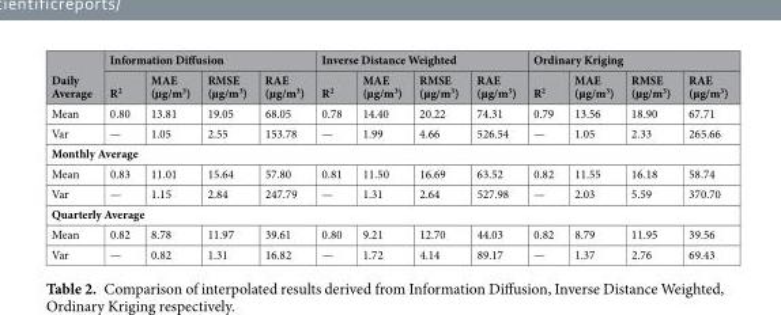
<table><thead><tr><td rowspan="2">Daily Average</td><td colspan="4">Information Diffusion</td><td colspan="4">Inverse Distance Weighted</td><td colspan="4">Ordinary Kriging</td></tr><tr><td>R<sup>2</sup></td><td>MAE (µg/m<sup>3</sup>)</td><td>RMSE (µg/m<sup>3</sup>)</td><td>RAE (µg/m<sup>3</sup>)</td><td>R<sup>2</sup></td><td>MAE (µg/m<sup>3</sup>)</td><td>RMSE (µg/m<sup>3</sup>)</td><td>RAE (µg/m<sup>3</sup>)</td><td>R<sup>2</sup></td><td>MAE (µg/m<sup>3</sup>)</td><td>RMSE (µg/m<sup>3</sup>)</td><td>RAE (µg/m<sup>3</sup>)</td></tr></thead><tbody><tr><td>Mean</td><td>0.80</td><td>13.81</td><td>19.05</td><td>68.05</td><td>0.78</td><td>14.40</td><td>20.22</td><td>74.31</td><td>0.79</td><td>13.56</td><td>18.90</td><td>67.71</td></tr><tr><td>Var</td><td>—</td><td>1.05</td><td>2.55</td><td>153.78</td><td>—</td><td>1.99</td><td>4.66</td><td>526.54</td><td>—</td><td>1.05</td><td>2.33</td><td>265.66</td></tr><tr><td colspan="13">Monthly Average</td></tr><tr><td>Mean</td><td>0.83</td><td>11.01</td><td>15.64</td><td>57.80</td><td>0.81</td><td>11.50</td><td>16.69</td><td>63.52</td><td>0.82</td><td>11.55</td><td>16.18</td><td>58.74</td></tr><tr><td>Var</td><td>—</td><td>1.15</td><td>2.84</td><td>247.79</td><td>—</td><td>1.31</td><td>2.64</td><td>527.98</td><td>—</td><td>2.03</td><td>5.59</td><td>370.70</td></tr><tr><td colspan="13">Quarterly Average</td></tr><tr><td>Mean</td><td>0.82</td><td>8.78</td><td>11.97</td><td>39.61</td><td>0.80</td><td>9.21</td><td>12.70</td><td>44.03</td><td>0.82</td><td>8.79</td><td>11.95</td><td>39.56</td></tr><tr><td>Var</td><td>—</td><td>0.82</td><td>1.31</td><td>16.82</td><td>—</td><td>1.72</td><td>4.14</td><td>89.17</td><td>—</td><td>1.37</td><td>2.76</td><td>69.43</td></tr></tbody></table>